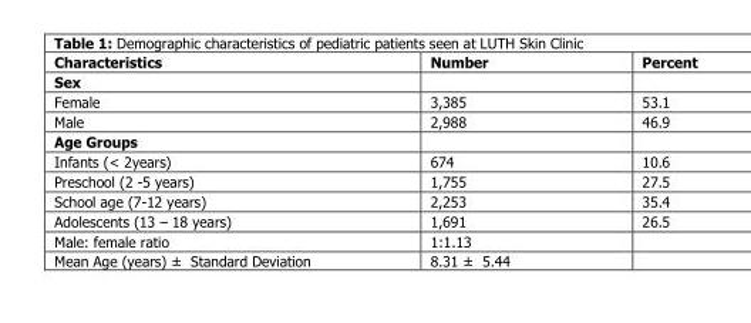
<table><thead><tr><td>Characteristics</td><td>Number</td><td>Percent</td></tr></thead><tbody><tr><td colspan="3">Sex</td></tr><tr><td>Female</td><td>3,385</td><td>53.1</td></tr><tr><td>Male</td><td>2,988</td><td>46.9</td></tr><tr><td colspan="3">Age Groups</td></tr><tr><td>Infants (&lt; 2years)</td><td>674</td><td>10.6</td></tr><tr><td>Preschool (2 -5 years)</td><td>1,755</td><td>27.5</td></tr><tr><td>School age (7-12 years)</td><td>2,253</td><td>35.4</td></tr><tr><td>Adolescents (13 – 18 years)</td><td>1,691</td><td>26.5</td></tr><tr><td>Male: female ratio</td><td>1:1.13</td><td></td></tr><tr><td>Mean Age (years) ± Standard Deviation</td><td>8.31 ± 5.44</td><td></td></tr></tbody></table>